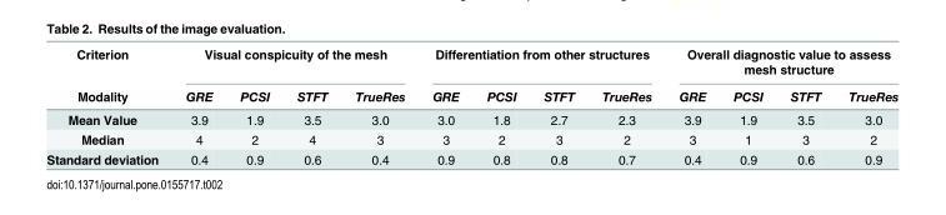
<table><thead><tr><td rowspan="2">Criterion Modality</td><td colspan="4">Visual conspicuity of the mesh</td><td colspan="4">Differentiation from other structures</td><td colspan="4">Overall diagnostic value to assess mesh structure</td></tr><tr><td>GRE</td><td>PCSI</td><td>STFT</td><td>TrueRes</td><td>GRE</td><td>PCSI</td><td>STFT</td><td>TrueRes</td><td>GRE</td><td>PCSI</td><td>STFT</td><td>TrueRes</td></tr></thead><tbody><tr><td>Mean Value</td><td>3.9</td><td>1.9</td><td>3.5</td><td>3.0</td><td>3.0</td><td>1.8</td><td>2.7</td><td>2.3</td><td>3.9</td><td>1.9</td><td>3.5</td><td>3.0</td></tr><tr><td>Median</td><td>4</td><td>2</td><td>4</td><td>3</td><td>3</td><td>2</td><td>3</td><td>2</td><td>3</td><td>1</td><td>3</td><td>2</td></tr><tr><td>Standard deviation</td><td>0.4</td><td>0.9</td><td>0.6</td><td>0.4</td><td>0.9</td><td>0.8</td><td>0.8</td><td>0.7</td><td>0.4</td><td>0.9</td><td>0.6</td><td>0.9</td></tr></tbody></table>